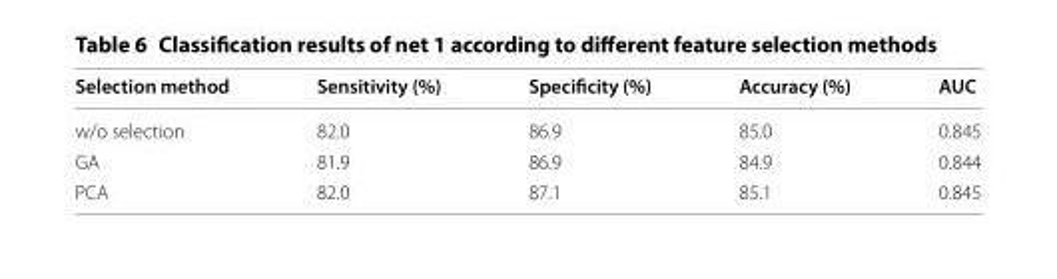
<table><thead><tr><td>Selection method</td><td>Sensitivity (%)</td><td>Specificity (%)</td><td>Accuracy (%)</td><td>AUC</td></tr></thead><tbody><tr><td>w/o selection</td><td>82.0</td><td>86.9</td><td>85.0</td><td>0.845</td></tr><tr><td>GA</td><td>81.9</td><td>86.9</td><td>84.9</td><td>0.844</td></tr><tr><td>PCA</td><td>82.0</td><td>87.1</td><td>85.1</td><td>0.845</td></tr></tbody></table>